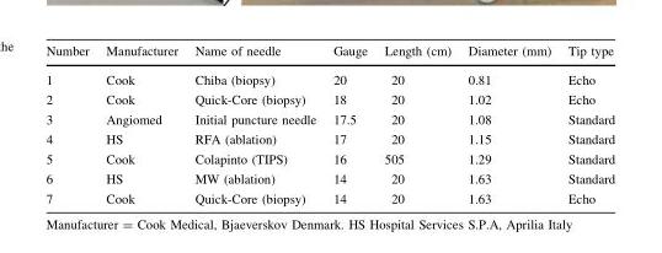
<table><thead><tr><td>Number</td><td>Manufacturer</td><td>Name of needle</td><td>Gauge</td><td>Length (cm)</td><td>Diameter (mm)</td><td>Tip type</td></tr></thead><tbody><tr><td>1</td><td>Cook</td><td>Chiba (biopsy)</td><td>20</td><td>20</td><td>0.81</td><td>Echo</td></tr><tr><td>2</td><td>Cook</td><td>Quick-Core (biopsy)</td><td>18</td><td>20</td><td>1.02</td><td>Echo</td></tr><tr><td>3</td><td>Angiomed</td><td>Initial puncture needle</td><td>17.5</td><td>20</td><td>1.08</td><td>Standard</td></tr><tr><td>4</td><td>HS</td><td>RFA (ablation)</td><td>17</td><td>20</td><td>1.15</td><td>Standard</td></tr><tr><td>5</td><td>Cook</td><td>Colapinto (TIPS)</td><td>16</td><td>505</td><td>1.29</td><td>Standard</td></tr><tr><td>6</td><td>HS</td><td>MW (ablation)</td><td>14</td><td>20</td><td>1.63</td><td>Standard</td></tr><tr><td>7</td><td>Cook</td><td>Quick-Core (biopsy)</td><td>14</td><td>20</td><td>1.63</td><td>Echo</td></tr></tbody></table>